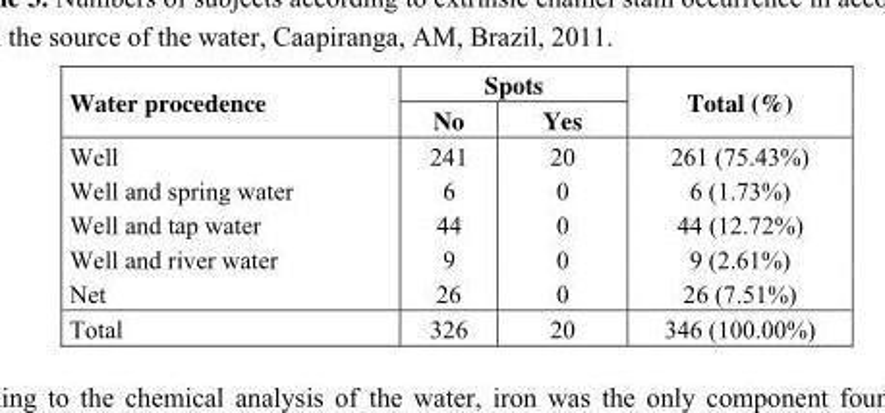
<table><thead><tr><td rowspan="2">Water procedence</td><td colspan="2">Spots</td><td rowspan="2">Total (%)</td></tr><tr><td>No</td><td>Yes</td></tr></thead><tbody><tr><td>Well</td><td>241</td><td>20</td><td>261 (75.43%)</td></tr><tr><td>Well and spring water</td><td>6</td><td>0</td><td>6 (1.73%)</td></tr><tr><td>Well and tap water</td><td>44</td><td>0</td><td>44 (12.72%)</td></tr><tr><td>Well and river water</td><td>9</td><td>0</td><td>9 (2.61%)</td></tr><tr><td>Net</td><td>26</td><td>0</td><td>26 (7.51%)</td></tr><tr><td>Total</td><td>326</td><td>20</td><td>346 (100.00%)</td></tr></tbody></table>